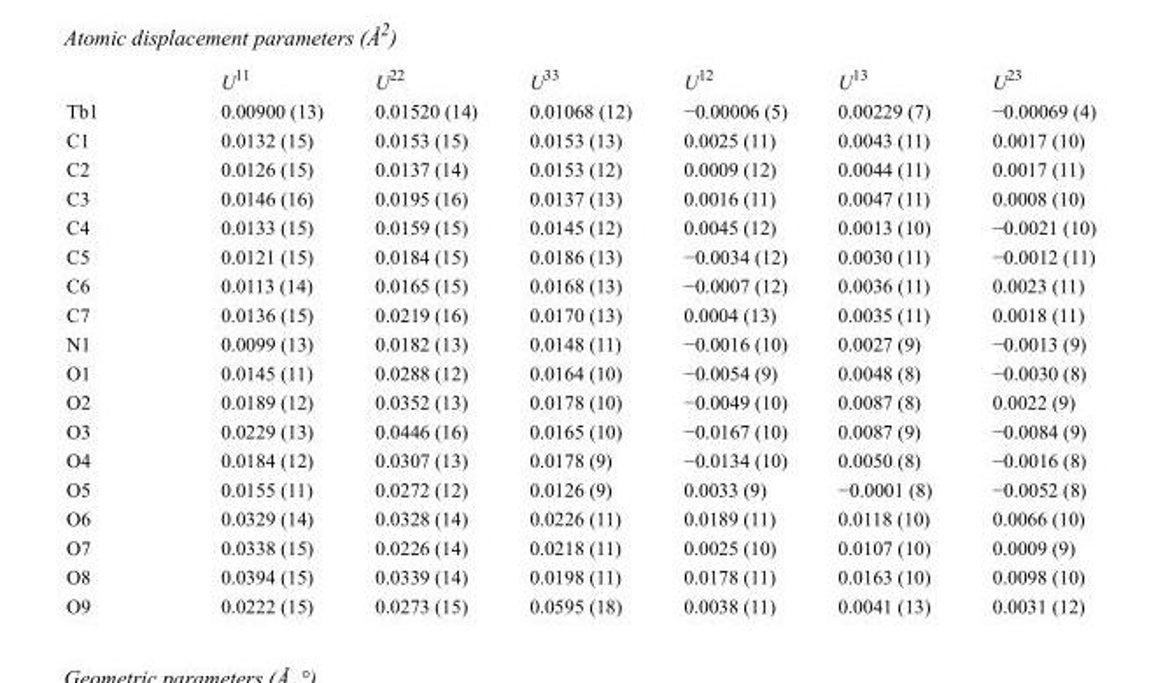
<table><thead><tr><td></td><td>U<sup>11</sup></td><td>U<sup>22</sup></td><td>U<sup>33</sup></td><td>U<sup>12</sup></td><td>U<sup>13</sup></td><td>U<sup>23</sup></td></tr></thead><tbody><tr><td>Tb1</td><td>0.00900 (13)</td><td>0.01520 (14)</td><td>0.01068 (12)</td><td>−0.00006 (5)</td><td>0.00229 (7)</td><td>−0.00069 (4)</td></tr><tr><td>C1</td><td>0.0132 (15)</td><td>0.0153 (15)</td><td>0.0153 (13)</td><td>0.0025 (11)</td><td>0.0043 (11)</td><td>0.0017 (10)</td></tr><tr><td>C2</td><td>0.0126 (15)</td><td>0.0137 (14)</td><td>0.0153 (12)</td><td>0.0009 (12)</td><td>0.0044 (11)</td><td>0.0017 (11)</td></tr><tr><td>C3</td><td>0.0146 (16)</td><td>0.0195 (16)</td><td>0.0137 (13)</td><td>0.0016 (11)</td><td>0.0047 (11)</td><td>0.0008 (10)</td></tr><tr><td>C4</td><td>0.0133 (15)</td><td>0.0159 (15)</td><td>0.0145 (12)</td><td>0.0045 (12)</td><td>0.0013 (10)</td><td>−0.0021 (10)</td></tr><tr><td>C5</td><td>0.0121 (15)</td><td>0.0184 (15)</td><td>0.0186 (13)</td><td>−0.0034 (12)</td><td>0.0030 (11)</td><td>−0.0012 (11)</td></tr><tr><td>C6</td><td>0.0113 (14)</td><td>0.0165 (15)</td><td>0.0168 (13)</td><td>−0.0007 (12)</td><td>0.0036 (11)</td><td>0.0023 (11)</td></tr><tr><td>C7</td><td>0.0136 (15)</td><td>0.0219 (16)</td><td>0.0170 (13)</td><td>0.0004 (13)</td><td>0.0035 (11)</td><td>0.0018 (11)</td></tr><tr><td>N1</td><td>0.0099 (13)</td><td>0.0182 (13)</td><td>0.0148 (11)</td><td>−0.0016 (10)</td><td>0.0027 (9)</td><td>−0.0013 (9)</td></tr><tr><td>O1</td><td>0.0145 (11)</td><td>0.0288 (12)</td><td>0.0164 (10)</td><td>−0.0054 (9)</td><td>0.0048 (8)</td><td>−0.0030 (8)</td></tr><tr><td>O2</td><td>0.0189 (12)</td><td>0.0352 (13)</td><td>0.0178 (10)</td><td>−0.0049 (10)</td><td>0.0087 (8)</td><td>0.0022 (9)</td></tr><tr><td>O3</td><td>0.0229 (13)</td><td>0.0446 (16)</td><td>0.0165 (10)</td><td>−0.0167 (10)</td><td>0.0087 (9)</td><td>−0.0084 (9)</td></tr><tr><td>O4</td><td>0.0184 (12)</td><td>0.0307 (13)</td><td>0.0178 (9)</td><td>−0.0134 (10)</td><td>0.0050 (8)</td><td>−0.0016 (8)</td></tr><tr><td>O5</td><td>0.0155 (11)</td><td>0.0272 (12)</td><td>0.0126 (9)</td><td>0.0033 (9)</td><td>−0.0001 (8)</td><td>−0.0052 (8)</td></tr><tr><td>O6</td><td>0.0329 (14)</td><td>0.0328 (14)</td><td>0.0226 (11)</td><td>0.0189 (11)</td><td>0.0118 (10)</td><td>0.0066 (10)</td></tr><tr><td>O7</td><td>0.0338 (15)</td><td>0.0226 (14)</td><td>0.0218 (11)</td><td>0.0025 (10)</td><td>0.0107 (10)</td><td>0.0009 (9)</td></tr><tr><td>O8</td><td>0.0394 (15)</td><td>0.0339 (14)</td><td>0.0198 (11)</td><td>0.0178 (11)</td><td>0.0163 (10)</td><td>0.0098 (10)</td></tr><tr><td>O9</td><td>0.0222 (15)</td><td>0.0273 (15)</td><td>0.0595 (18)</td><td>0.0038 (11)</td><td>0.0041 (13)</td><td>0.0031 (12)</td></tr></tbody></table>